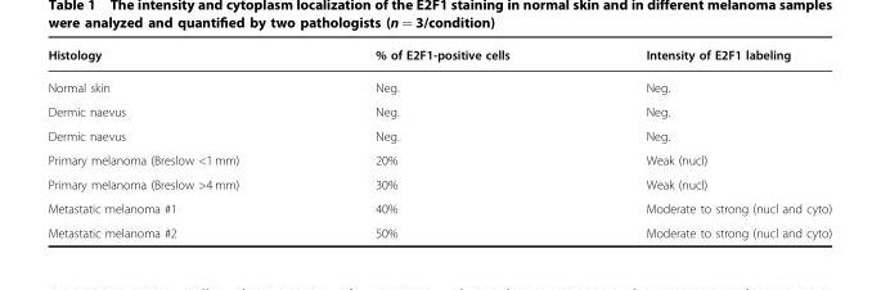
<table><thead><tr><td>Histology</td><td>% of E2F1-positive cells</td><td>Intensity of E2F1 labeling</td></tr></thead><tbody><tr><td>Normal skin</td><td>Neg.</td><td>Neg.</td></tr><tr><td>Dermic naevus</td><td>Neg.</td><td>Neg.</td></tr><tr><td>Dermic naevus</td><td>Neg.</td><td>Neg.</td></tr><tr><td>Primary melanoma (Breslow &lt;1 mm)</td><td>20%</td><td>Weak (nucl)</td></tr><tr><td>Primary melanoma (Breslow &gt;4 mm)</td><td>30%</td><td>Weak (nucl)</td></tr><tr><td>Metastatic melanoma #1</td><td>40%</td><td>Moderate to strong (nucl and cyto)</td></tr><tr><td>Metastatic melanoma #2</td><td>50%</td><td>Moderate to strong (nucl and cyto)</td></tr></tbody></table>